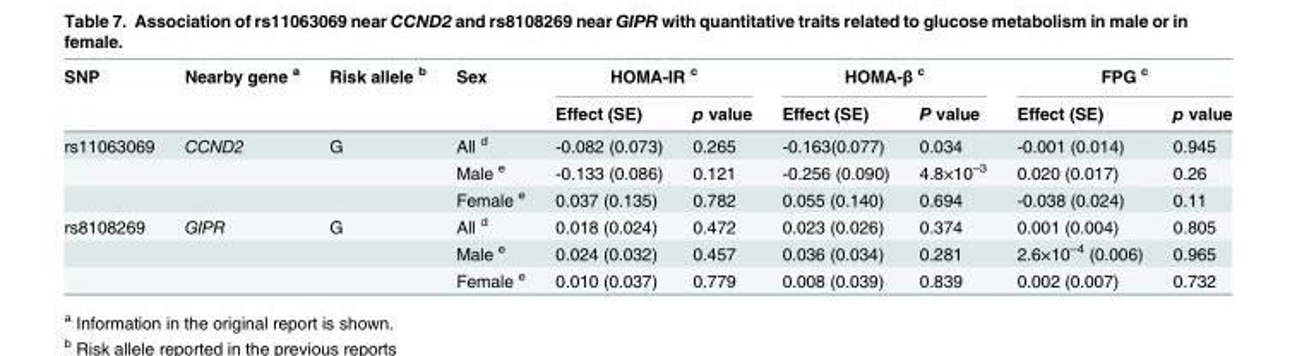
<table><thead><tr><td rowspan="2">SNP</td><td rowspan="2">Nearby gene <sup>a</sup></td><td rowspan="2">Risk allele <sup>b</sup></td><td rowspan="2">Sex</td><td colspan="2">HOMA-IR <sup>c</sup></td><td colspan="2">HOMA-β <sup>c</sup></td><td colspan="2">FPG <sup>c</sup></td></tr><tr><td>Effect (SE)</td><td>p value</td><td>Effect (SE)</td><td>P value</td><td>Effect (SE)</td><td>p value</td></tr></thead><tbody><tr><td rowspan="3">rs11063069</td><td>CCND2</td><td>G</td><td>All <sup>d</sup></td><td>-0.082 (0.073)</td><td>0.265</td><td>-0.163(0.077)</td><td>0.034</td><td>-0.001 (0.014)</td><td>0.945</td></tr><tr><td></td><td></td><td>Male <sup>e</sup></td><td>-0.133 (0.086)</td><td>0.121</td><td>-0.256 (0.090)</td><td>4.8×10<sup>–3</sup></td><td>0.020 (0.017)</td><td>0.26</td></tr><tr><td></td><td></td><td>Female <sup>e</sup></td><td>0.037 (0.135)</td><td>0.782</td><td>0.055 (0.140)</td><td>0.694</td><td>-0.038 (0.024)</td><td>0.11</td></tr><tr><td rowspan="3">rs8108269</td><td>GIPR</td><td>G</td><td>All <sup>d</sup></td><td>0.018 (0.024)</td><td>0.472</td><td>0.023 (0.026)</td><td>0.374</td><td>0.001 (0.004)</td><td>0.805</td></tr><tr><td></td><td></td><td>Male <sup>e</sup></td><td>0.024 (0.032)</td><td>0.457</td><td>0.036 (0.034)</td><td>0.281</td><td>2.6×10<sup>–4</sup> (0.006)</td><td>0.965</td></tr><tr><td></td><td></td><td>Female <sup>e</sup></td><td>0.010 (0.037)</td><td>0.779</td><td>0.008 (0.039)</td><td>0.839</td><td>0.002 (0.007)</td><td>0.732</td></tr></tbody></table>